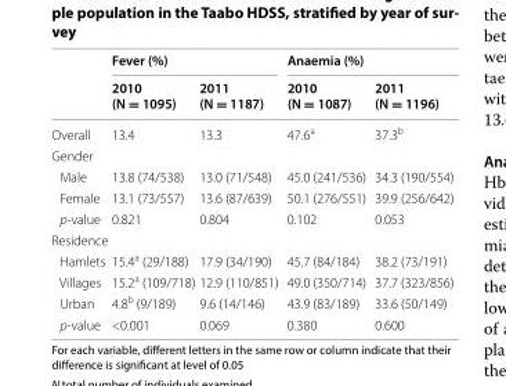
<table><thead><tr><td rowspan="2"></td><td colspan="2">Fever (%)</td><td colspan="2">Anaemia (%)</td></tr><tr><td>2010 (N = 1095)</td><td>2011 (N = 1187)</td><td>2010 (N = 1087)</td><td>2011 (N = 1196)</td></tr></thead><tbody><tr><td>Overall</td><td>13.4</td><td>13.3</td><td>47.6<sup>a</sup></td><td>37.3<sup>b</sup></td></tr><tr><td colspan="5">Gender</td></tr><tr><td>Male</td><td>13.8 (74/538)</td><td>13.0 (71/548)</td><td>45.0 (241/536)</td><td>34.3 (190/554)</td></tr><tr><td>Female</td><td>13.1 (73/557)</td><td>13.6 (87/639)</td><td>50.1 (276/551)</td><td>39.9 (256/642)</td></tr><tr><td>p-value</td><td>0.821</td><td>0.804</td><td>0.102</td><td>0.053</td></tr><tr><td colspan="5">Residence</td></tr><tr><td>Hamlets</td><td>15.4<sup>a</sup> (29/188)</td><td>17.9 (34/190)</td><td>45.7 (84/184)</td><td>38.2 (73/191)</td></tr><tr><td>Villages</td><td>15.2<sup>a</sup> (109/718)</td><td>12.9 (110/851)</td><td>49.0 (350/714)</td><td>37.7 (323/856)</td></tr><tr><td>Urban</td><td>4.8<sup>b</sup> (9/189)</td><td>9.6 (14/146)</td><td>43.9 (83/189)</td><td>33.6 (50/149)</td></tr><tr><td>p-value</td><td>&lt;0.001</td><td>0.069</td><td>0.380</td><td>0.600</td></tr></tbody></table>